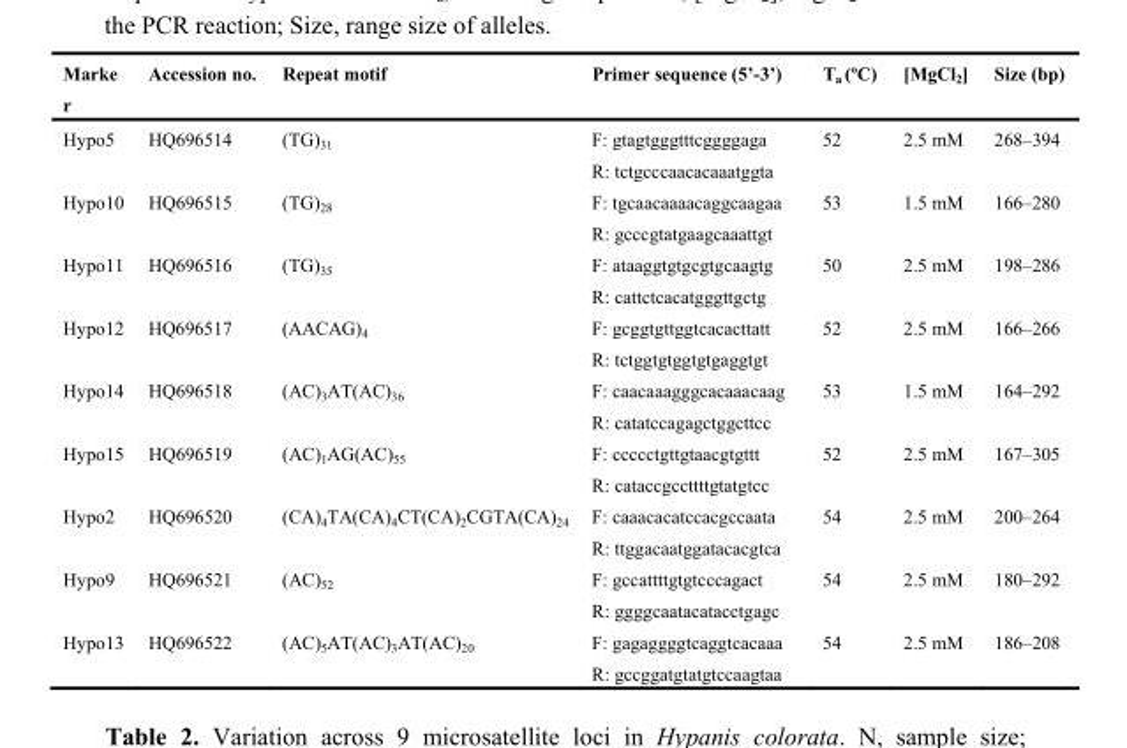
<table><thead><tr><td>Marke r</td><td>Accession no.</td><td>Repeat motif</td><td>Primer sequence (5’-3’)</td><td>T<sub>a</sub> (ºC)</td><td>[MgCl<sub>2</sub>]</td><td>Size (bp)</td></tr></thead><tbody><tr><td rowspan="2">Hypo5</td><td>HQ696514</td><td>(TG)<sub>31</sub></td><td>F: gtagtgggtttcggggaga</td><td>52</td><td>2.5 mM</td><td>268–394</td></tr><tr><td></td><td></td><td>R: tctgcccaacacaaatggta</td><td></td><td></td><td></td></tr><tr><td rowspan="2">Hypo10</td><td>HQ696515</td><td>(TG)<sub>28</sub></td><td>F: tgcaacaaaacaggcaagaa</td><td>53</td><td>1.5 mM</td><td>166–280</td></tr><tr><td></td><td></td><td>R: gcccgtatgaagcaaattgt</td><td></td><td></td><td></td></tr><tr><td rowspan="2">Hypo11</td><td>HQ696516</td><td>(TG)<sub>35</sub></td><td>F: ataaggtgtgcgtgcaagtg</td><td>50</td><td>2.5 mM</td><td>198–286</td></tr><tr><td></td><td></td><td>R: cattctcacatgggttgctg</td><td></td><td></td><td></td></tr><tr><td rowspan="2">Hypo12</td><td>HQ696517</td><td>(AACAG)<sub>4</sub></td><td>F: gcggtgttggtcacacttatt</td><td>52</td><td>2.5 mM</td><td>166–266</td></tr><tr><td></td><td></td><td>R: tctggtgtggtgtgaggtgt</td><td></td><td></td><td></td></tr><tr><td rowspan="2">Hypo14</td><td>HQ696518</td><td>(AC)<sub>3</sub>AT(AC)<sub>36</sub></td><td>F: caacaaagggcacaaacaag</td><td>53</td><td>1.5 mM</td><td>164–292</td></tr><tr><td></td><td></td><td>R: catatccagagctggcttcc</td><td></td><td></td><td></td></tr><tr><td rowspan="2">Hypo15</td><td>HQ696519</td><td>(AC)<sub>1</sub>AG(AC)<sub>55</sub></td><td>F: ccccctgttgtaacgtgttt</td><td>52</td><td>2.5 mM</td><td>167–305</td></tr><tr><td></td><td></td><td>R: cataccgccttttgtatgtcc</td><td></td><td></td><td></td></tr><tr><td rowspan="2">Hypo2</td><td>HQ696520</td><td>(CA)<sub>4</sub>TA(CA)<sub>4</sub>CT(CA)<sub>2</sub>CGTA(CA)<sub>24</sub></td><td>F: caaacacatccacgccaata</td><td>54</td><td>2.5 mM</td><td>200–264</td></tr><tr><td></td><td></td><td>R: ttggacaatggatacacgtca</td><td></td><td></td><td></td></tr><tr><td rowspan="2">Hypo9</td><td>HQ696521</td><td>(AC)<sub>52</sub></td><td>F: gccattttgtgtcccagact</td><td>54</td><td>2.5 mM</td><td>180–292</td></tr><tr><td></td><td></td><td>R: ggggcaatacatacctgagc</td><td></td><td></td><td></td></tr><tr><td rowspan="2">Hypo13</td><td>HQ696522</td><td>(AC)<sub>5</sub>AT(AC)<sub>3</sub>AT(AC)<sub>20</sub></td><td>F: gagaggggtcaggtcacaaa</td><td>54</td><td>2.5 mM</td><td>186–208</td></tr><tr><td></td><td></td><td>R: gccggatgtatgtccaagtaa</td><td></td><td></td><td></td></tr></tbody></table>